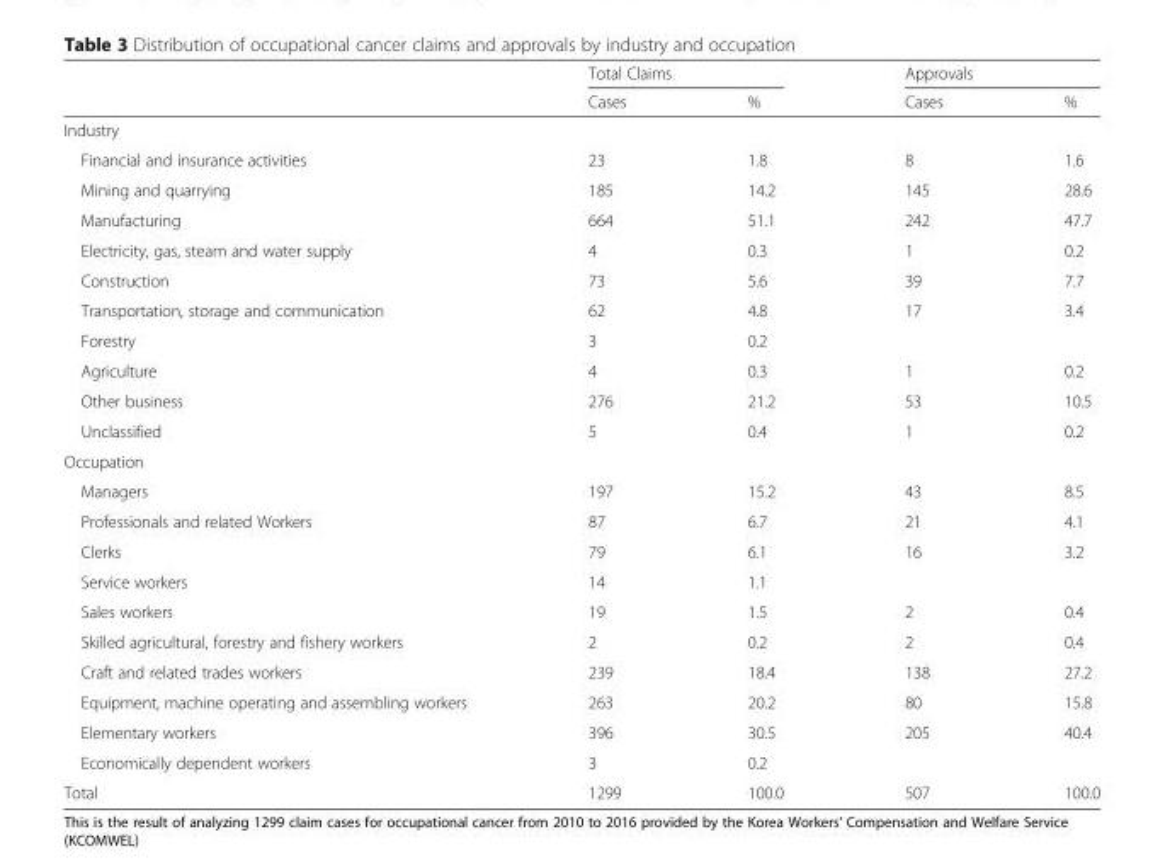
<table><thead><tr><td rowspan="2"></td><td colspan="2">Total Claims</td><td colspan="2">Approvals</td></tr><tr><td>Cases</td><td>%</td><td>Cases</td><td>%</td></tr></thead><tbody><tr><td colspan="5">Industry</td></tr><tr><td>Financial and insurance activities</td><td>23</td><td>1.8</td><td>8</td><td>1.6</td></tr><tr><td>Mining and quarrying</td><td>185</td><td>14.2</td><td>145</td><td>28.6</td></tr><tr><td>Manufacturing</td><td>664</td><td>51.1</td><td>242</td><td>47.7</td></tr><tr><td>Electricity, gas, steam and water supply</td><td>4</td><td>0.3</td><td>1</td><td>0.2</td></tr><tr><td>Construction</td><td>73</td><td>5.6</td><td>39</td><td>7.7</td></tr><tr><td>Transportation, storage and communication</td><td>62</td><td>4.8</td><td>17</td><td>3.4</td></tr><tr><td>Forestry</td><td>3</td><td>0.2</td><td></td><td></td></tr><tr><td>Agriculture</td><td>4</td><td>0.3</td><td>1</td><td>0.2</td></tr><tr><td>Other business</td><td>276</td><td>21.2</td><td>53</td><td>10.5</td></tr><tr><td>Unclassified</td><td>5</td><td>0.4</td><td>1</td><td>0.2</td></tr><tr><td colspan="5">Occupation</td></tr><tr><td>Managers</td><td>197</td><td>15.2</td><td>43</td><td>8.5</td></tr><tr><td>Professionals and related Workers</td><td>87</td><td>6.7</td><td>21</td><td>4.1</td></tr><tr><td>Clerks</td><td>79</td><td>6.1</td><td>16</td><td>3.2</td></tr><tr><td>Service workers</td><td>14</td><td>1.1</td><td></td><td></td></tr><tr><td>Sales workers</td><td>19</td><td>1.5</td><td>2</td><td>0.4</td></tr><tr><td>Skilled agricultural, forestry and fishery workers</td><td>2</td><td>0.2</td><td>2</td><td>0.4</td></tr><tr><td>Craft and related trades workers</td><td>239</td><td>18.4</td><td>138</td><td>27.2</td></tr><tr><td>Equipment, machine operating and assembling workers</td><td>263</td><td>20.2</td><td>80</td><td>15.8</td></tr><tr><td>Elementary workers</td><td>396</td><td>30.5</td><td>205</td><td>40.4</td></tr><tr><td>Economically dependent workers</td><td>3</td><td>0.2</td><td></td><td></td></tr><tr><td>Total</td><td>1299</td><td>100.0</td><td>507</td><td>100.0</td></tr></tbody></table>